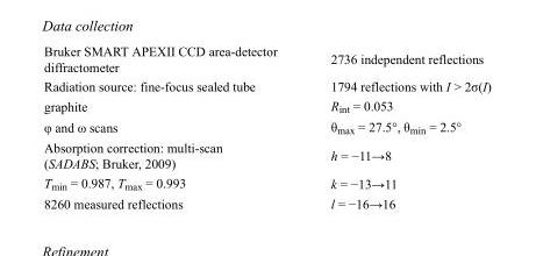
<table><tbody><tr><td>Bruker SMART APEXII CCD area-detector diffractometer</td><td>2736 independent reflections</td></tr><tr><td>Radiation source: fine-focus sealed tube</td><td>1794 reflections with I &gt; 2σ(I)</td></tr><tr><td>graphite</td><td>R<sub>int</sub> = 0.053</td></tr><tr><td>φ and ω scans</td><td>θ<sub>max</sub> = 27.5°, θ<sub>min</sub> = 2.5°</td></tr><tr><td>Absorption correction: multi-scan (SADABS; Bruker, 2009)</td><td>h = −11→8</td></tr><tr><td>T<sub>min</sub> = 0.987, T<sub>max</sub> = 0.993</td><td>k = −13→11</td></tr><tr><td>8260 measured reflections</td><td>l = −16→16</td></tr></tbody></table>